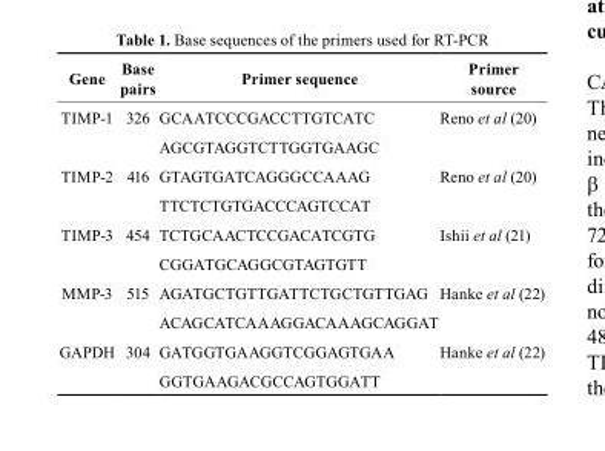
<table><thead><tr><td>Gene</td><td>base pairs</td><td>Primer sequence</td><td>Primer source</td></tr></thead><tbody><tr><td rowspan="2">TIMP-1</td><td>326</td><td>GCAATCCCGACCTTGTCATC</td><td>Reno et al (20)</td></tr><tr><td></td><td>AGCGTAGGTCTTGGTGAAGC</td><td></td></tr><tr><td rowspan="2">TIMP-2</td><td>416</td><td>GTAGTGATCAGGGCCAAAG</td><td>Reno et al (20)</td></tr><tr><td></td><td>TTCTCTGTGACCCAGTCCAT</td><td></td></tr><tr><td rowspan="2">TIMP-3</td><td>454</td><td>TCTGCAACTCCGACATCGTG</td><td>Ishii et al (21)</td></tr><tr><td></td><td>CGGATGCAGGCGTAGTGTT</td><td></td></tr><tr><td rowspan="2">MMP-3</td><td>515</td><td>AGATGCTGTTGATTCTGCTGTTGAG</td><td>Hanke et al (22)</td></tr><tr><td></td><td>ACAGCATCAAAGGACAAAGCAGGAT</td><td></td></tr><tr><td rowspan="2">GAPDH</td><td>304</td><td>GATGGTGAAGGTCGGAGTGAA</td><td>Hanke et al (22)</td></tr><tr><td></td><td>GGTGAAGACGCCAGTGGATT</td><td></td></tr></tbody></table>